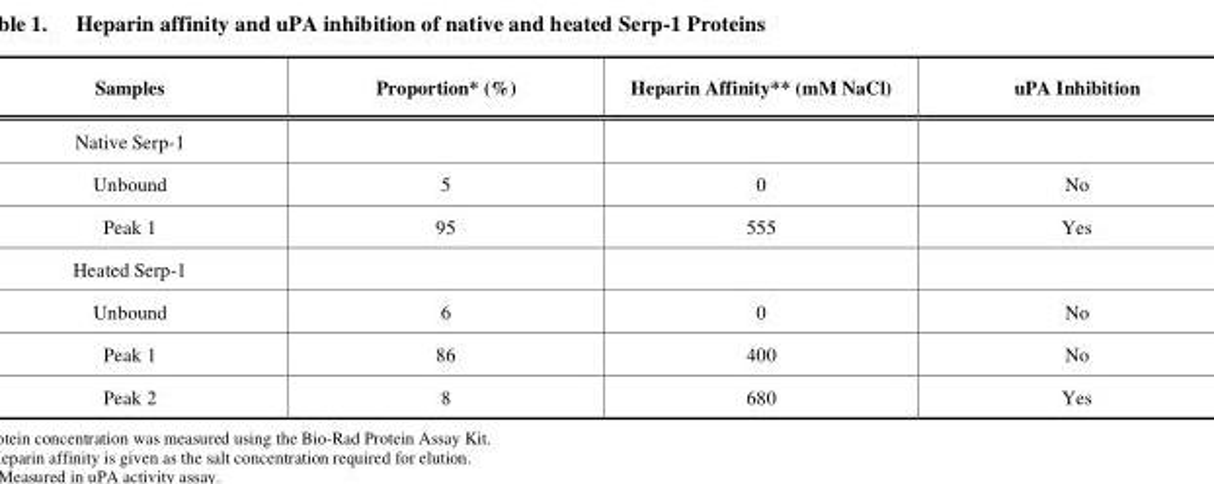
<table><thead><tr><td>Samples</td><td>Proportion* (%)</td><td>Heparin Affinity** (mM NaCl)</td><td>uPA Inhibition</td></tr></thead><tbody><tr><td colspan="4">Native Serp-1</td></tr><tr><td>Unbound</td><td>5</td><td>0</td><td>No</td></tr><tr><td>Peak 1</td><td>95</td><td>555</td><td>Yes</td></tr><tr><td colspan="4">Heated Serp-1</td></tr><tr><td>Unbound</td><td>6</td><td>0</td><td>No</td></tr><tr><td>Peak 1</td><td>86</td><td>400</td><td>No</td></tr><tr><td>Peak 2</td><td>8</td><td>680</td><td>Yes</td></tr></tbody></table>